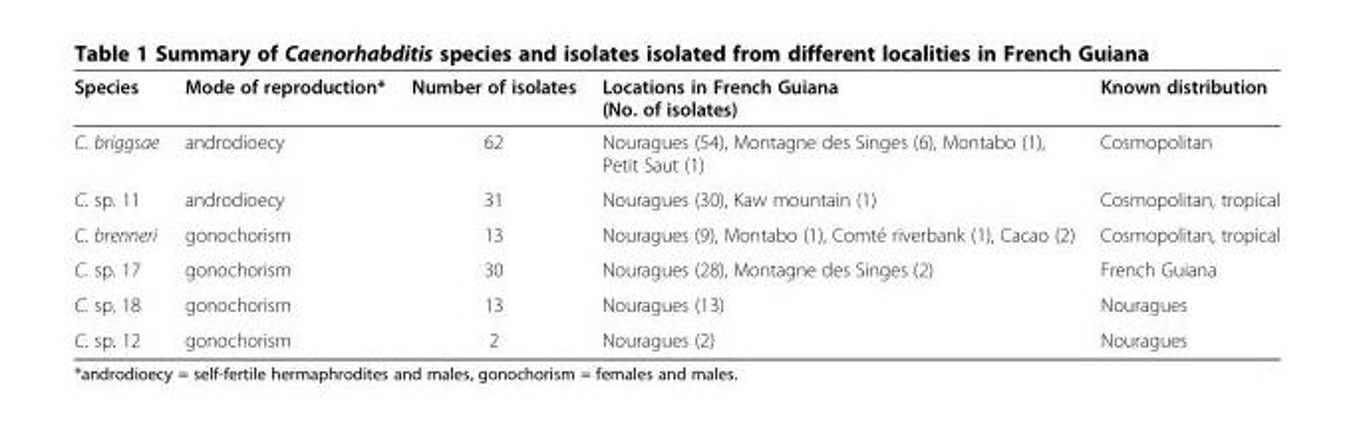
<table><thead><tr><td>Species</td><td>Mode of reproduction*</td><td>Number of isolates</td><td>Locations in French Guiana (No. of isolates)</td><td>Known distribution</td></tr></thead><tbody><tr><td>C. briggsae</td><td>androdioecy</td><td>62</td><td>Nouragues (54), Montagne des Singes (6), Montabo (1), Petit Saut (1)</td><td>Cosmopolitan</td></tr><tr><td>C. sp. 11</td><td>androdioecy</td><td>31</td><td>Nouragues (30), Kaw mountain (1)</td><td>Cosmopolitan, tropical</td></tr><tr><td>C. brenneri</td><td>gonochorism</td><td>13</td><td>Nouragues (9), Montabo (1), Comté riverbank (1), Cacao (2)</td><td>Cosmopolitan, tropical</td></tr><tr><td>C. sp. 17</td><td>gonochorism</td><td>30</td><td>Nouragues (28), Montagne des Singes (2)</td><td>French Guiana</td></tr><tr><td>C. sp. 18</td><td>gonochorism</td><td>13</td><td>Nouragues (13)</td><td>Nouragues</td></tr><tr><td>C. sp. 12</td><td>gonochorism</td><td>2</td><td>Nouragues (2)</td><td>Nouragues</td></tr></tbody></table>